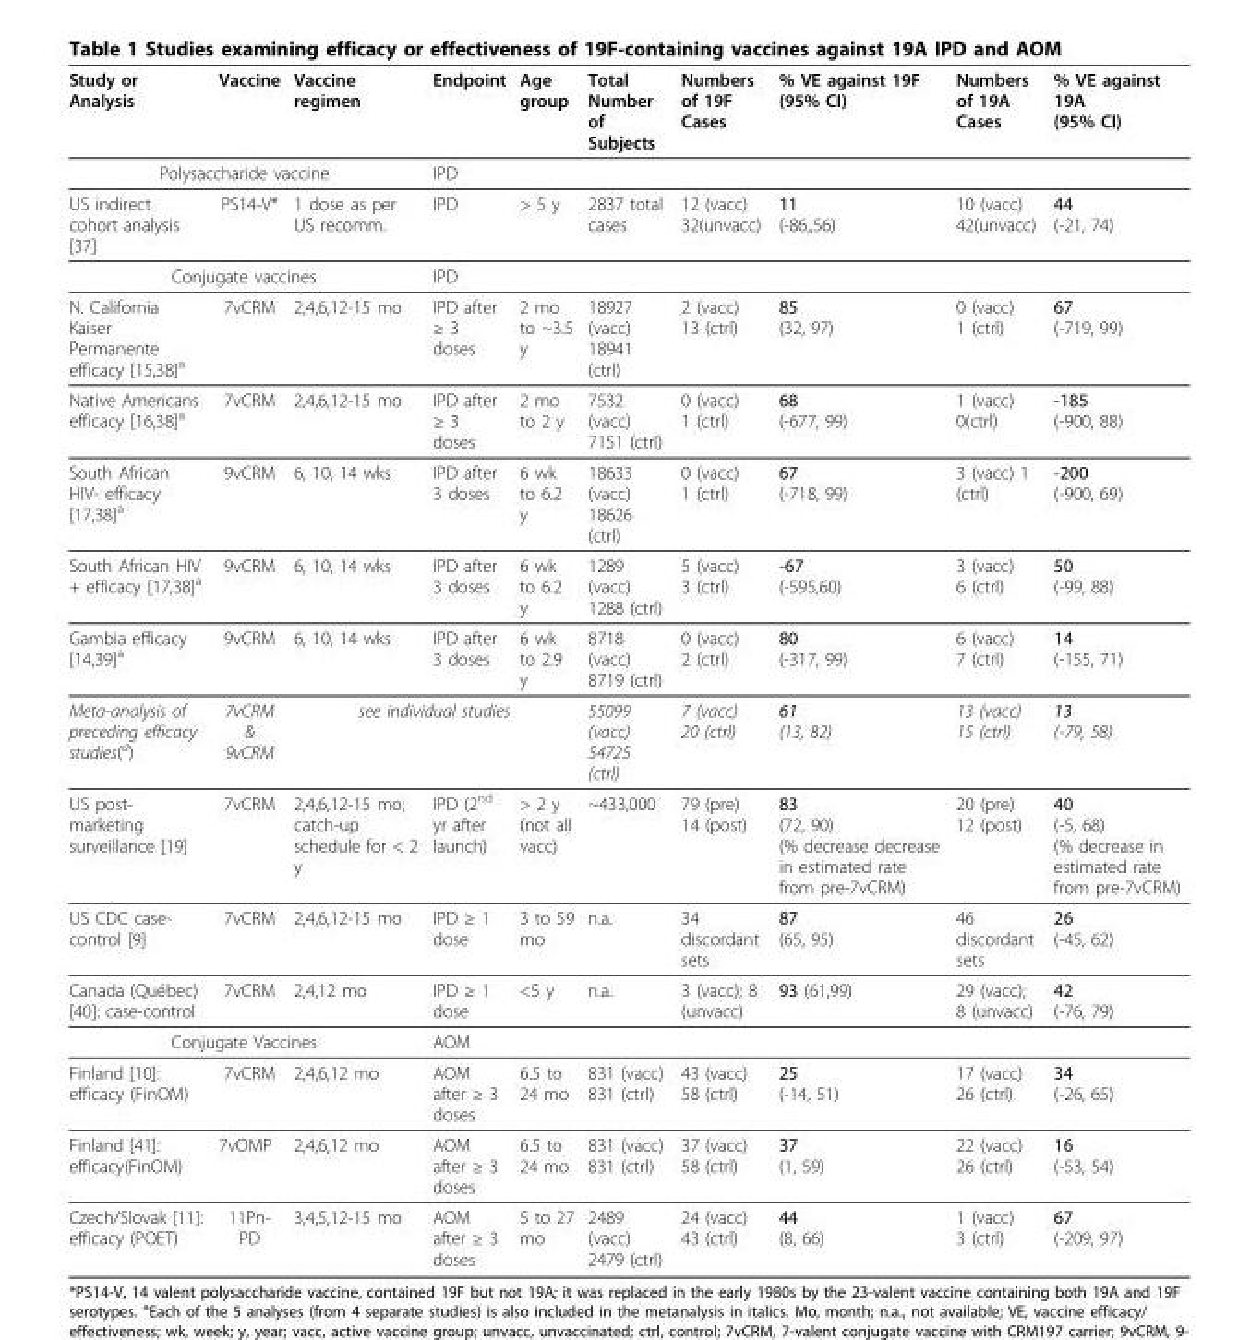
<table><thead><tr><td>Study or Analysis</td><td>Vaccine</td><td>Vaccine regimen</td><td>Endpoint</td><td>Age group</td><td>Total Number of Subjects</td><td>Numbers of 19F Cases</td><td>% VE against 19F (95% CI)</td><td>Numbers of 19A Cases</td><td>% VE against 19A (95% CI)</td></tr></thead><tbody><tr><td colspan="3">Polysaccharide vaccine</td><td>IPD</td><td></td><td></td><td></td><td></td><td></td><td></td></tr><tr><td>US indirect cohort analysis [37]</td><td>PS14-V*</td><td>1 dose as per US recomm.</td><td>IPD</td><td>&gt; 5 y</td><td>2837 total cases</td><td>12 (vacc) 32(unvacc)</td><td>11 (-86,,56)</td><td>10 (vacc) 42(unvacc)</td><td>44 (-21, 74)</td></tr><tr><td colspan="3">Conjugate vaccines</td><td>IPD</td><td></td><td></td><td></td><td></td><td></td><td></td></tr><tr><td>N. California Kaiser Permanente efficacy [15,38]a</td><td>7vCRM</td><td>2,4,6,12-15 mo</td><td>IPD after ≥ 3 doses</td><td>2 mo to ~3.5 y</td><td>18927 (vacc) 18941 (ctrl)</td><td>2 (vacc) 13 (ctrl)</td><td>85 (32, 97)</td><td>0 (vacc) 1 (ctrl)</td><td>67 (-719, 99)</td></tr><tr><td>Native Americans efficacy [16,38]a</td><td>7vCRM</td><td>2,4,6,12-15 mo</td><td>IPD after ≥ 3 doses</td><td>2 mo to 2 y</td><td>7532 (vacc) 7151 (ctrl)</td><td>0 (vacc) 1 (ctrl)</td><td>68 (-677, 99)</td><td>1 (vacc) 0(ctrl)</td><td>-185 (-900, 88)</td></tr><tr><td>South African HIV- efficacy [17,38]a</td><td>9vCRM</td><td>6, 10, 14 wks</td><td>IPD after 3 doses</td><td>6 wk to 6.2 y</td><td>18633 (vacc) 18626 (ctrl)</td><td>0 (vacc) 1 (ctrl)</td><td>67 (-718, 99)</td><td>3 (vacc) 1 (ctrl)</td><td>-200 (-900, 69)</td></tr><tr><td>South African HIV + efficacy [17,38]a</td><td>9vCRM</td><td>6, 10, 14 wks</td><td>IPD after 3 doses</td><td>6 wk to 6.2 y</td><td>1289 (vacc) 1288 (ctrl)</td><td>5 (vacc) 3 (ctrl)</td><td>-67 (-595,60)</td><td>3 (vacc) 6 (ctrl)</td><td>50 (-99, 88)</td></tr><tr><td>Gambia efficacy [14,39]a</td><td>9vCRM</td><td>6, 10, 14 wks</td><td>IPD after 3 doses</td><td>6 wk to 2.9 y</td><td>8718 (vacc) 8719 (ctrl)</td><td>0 (vacc) 2 (ctrl)</td><td>80 (-317, 99)</td><td>6 (vacc) 7 (ctrl)</td><td>14 (-155, 71)</td></tr><tr><td>Meta-analysis of preceding efficacy studies(a)</td><td>7vCRM &amp; 9vCRM</td><td colspan="3">see individual studies</td><td>55099 (vacc) 54725 (ctrl)</td><td>7 (vacc) 20 (ctrl)</td><td>61 (13, 82)</td><td>13 (vacc) 15 (ctrl)</td><td>13 (-79, 58)</td></tr><tr><td>US post- marketing surveillance [19]</td><td>7vCRM</td><td>2,4,6,12-15 mo; catch-up schedule for &lt; 2 y</td><td>IPD (2nd yr after launch)</td><td>&gt; 2 y (not all vacc)</td><td>~433,000</td><td>79 (pre) 14 (post)</td><td>83 (72, 90) (% decrease decrease in estimated rate from pre-7vCRM)</td><td>20 (pre) 12 (post)</td><td>40 (-5, 68) (% decrease in estimated rate from pre-7vCRM)</td></tr><tr><td>US CDC case- control [9]</td><td>7vCRM</td><td>2,4,6,12-15 mo</td><td>IPD ≥ 1 dose</td><td>3 to 59 mo</td><td>n.a.</td><td>34 discordant sets</td><td>87 (65, 95)</td><td>46 discordant sets</td><td>26 (-45, 62)</td></tr><tr><td>Canada (Québec) [40]: case-control</td><td>7vCRM</td><td>2,4,12 mo</td><td>IPD ≥ 1 dose</td><td>&lt;5 y</td><td>n.a.</td><td>3 (vacc); 8 (unvacc)</td><td>93 (61,99)</td><td>29 (vacc); 8 (unvacc)</td><td>42 (-76, 79)</td></tr><tr><td colspan="3">Conjugate Vaccines</td><td>AOM</td><td></td><td></td><td></td><td></td><td></td><td></td></tr><tr><td>Finland [10]: efficacy (FinOM)</td><td>7vCRM</td><td>2,4,6,12 mo</td><td>AOM after ≥ 3 doses</td><td>6.5 to 24 mo</td><td>831 (vacc) 831 (ctrl)</td><td>43 (vacc) 58 (ctrl)</td><td>25 (-14, 51)</td><td>17 (vacc) 26 (ctrl)</td><td>34 (-26, 65)</td></tr><tr><td>Finland [41]: efficacy(FinOM)</td><td>7vOMP</td><td>2,4,6,12 mo</td><td>AOM after ≥ 3 doses</td><td>6.5 to 24 mo</td><td>831 (vacc) 831 (ctrl)</td><td>37 (vacc) 58 (ctrl)</td><td>37 (1, 59)</td><td>22 (vacc) 26 (ctrl)</td><td>16 (-53, 54)</td></tr><tr><td>Czech/Slovak [11]: efficacy (POET)</td><td>11Pn- PD</td><td>3,4,5,12-15 mo</td><td>AOM after ≥ 3 doses</td><td>5 to 27 mo</td><td>2489 (vacc) 2479 (ctrl)</td><td>24 (vacc) 43 (ctrl)</td><td>44 (8, 66)</td><td>1 (vacc) 3 (ctrl)</td><td>67 (-209, 97)</td></tr></tbody></table>